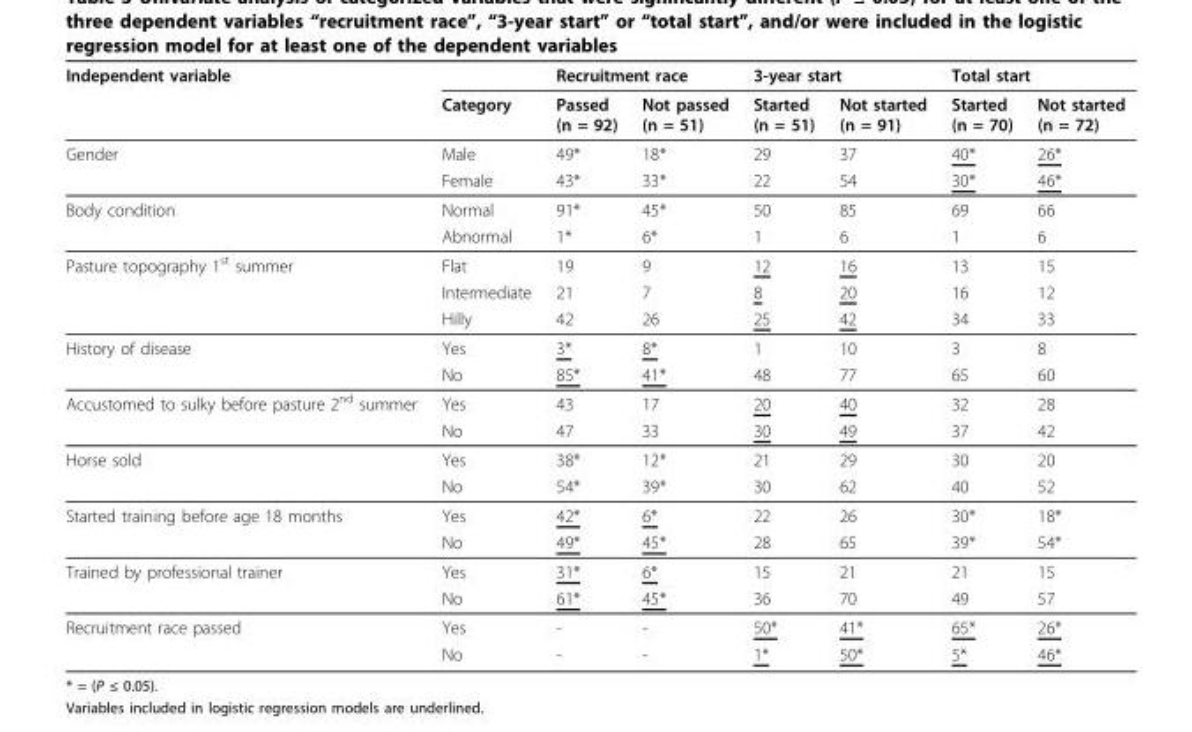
<table><thead><tr><td rowspan="2">Independent variable</td><td rowspan="2">Category</td><td colspan="2">Recruitment race</td><td colspan="2">3-year start</td><td colspan="2">Total start</td></tr><tr><td>Passed (n = 92)</td><td>Not passed (n = 51)</td><td>Started (n = 51)</td><td>Not started (n = 91)</td><td>Started (n = 70)</td><td>Not started (n = 72)</td></tr></thead><tbody><tr><td rowspan="2">Gender</td><td>Male</td><td>49*</td><td>18*</td><td>29</td><td>37</td><td>40*</td><td>26*</td></tr><tr><td>Female</td><td>43*</td><td>33*</td><td>22</td><td>54</td><td>30*</td><td>46*</td></tr><tr><td rowspan="2">Body condition</td><td>Normal</td><td>91*</td><td>45*</td><td>50</td><td>85</td><td>69</td><td>66</td></tr><tr><td>Abnormal</td><td>1*</td><td>6*</td><td>1</td><td>6</td><td>1</td><td>6</td></tr><tr><td rowspan="3">Pasture topography 1<sup>st</sup> summer</td><td>Flat</td><td>19</td><td>9</td><td>12</td><td>16</td><td>13</td><td>15</td></tr><tr><td>Intermediate</td><td>21</td><td>7</td><td>8</td><td>20</td><td>16</td><td>12</td></tr><tr><td>Hilly</td><td>42</td><td>26</td><td>25</td><td>42</td><td>34</td><td>33</td></tr><tr><td rowspan="2">History of disease</td><td>Yes</td><td>3*</td><td>8*</td><td>1</td><td>10</td><td>3</td><td>8</td></tr><tr><td>No</td><td>85*</td><td>41*</td><td>48</td><td>77</td><td>65</td><td>60</td></tr><tr><td rowspan="2">Accustomed to sulky before pasture 2<sup>nd</sup> summer</td><td>Yes</td><td>43</td><td>17</td><td>20</td><td>40</td><td>32</td><td>28</td></tr><tr><td>No</td><td>47</td><td>33</td><td>30</td><td>49</td><td>37</td><td>42</td></tr><tr><td rowspan="2">Horse sold</td><td>Yes</td><td>38*</td><td>12*</td><td>21</td><td>29</td><td>30</td><td>20</td></tr><tr><td>No</td><td>54*</td><td>39*</td><td>30</td><td>62</td><td>40</td><td>52</td></tr><tr><td rowspan="2">Started training before age 18 months</td><td>Yes</td><td>42*</td><td>6*</td><td>22</td><td>26</td><td>30*</td><td>18*</td></tr><tr><td>No</td><td>49*</td><td>45*</td><td>28</td><td>65</td><td>39*</td><td>54*</td></tr><tr><td rowspan="2">Trained by professional trainer</td><td>Yes</td><td>31*</td><td>6*</td><td>15</td><td>21</td><td>21</td><td>15</td></tr><tr><td>No</td><td>61*</td><td>45*</td><td>36</td><td>70</td><td>49</td><td>57</td></tr><tr><td rowspan="2">Recruitment race passed</td><td>Yes</td><td>-</td><td>-</td><td>50*</td><td>41*</td><td>65*</td><td>26*</td></tr><tr><td>No</td><td>-</td><td>-</td><td>1*</td><td>50*</td><td>5*</td><td>46*</td></tr></tbody></table>